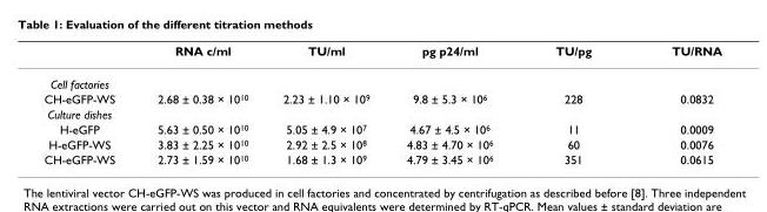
<table><thead><tr><td></td><td>RNA c/ml</td><td>TU/ml</td><td>pg p24/ml</td><td>TU/pg</td><td>TU/RNA</td></tr></thead><tbody><tr><td colspan="6">Cell factories</td></tr><tr><td>CH-eGFP-WS</td><td>2.68 ± 0.38 × 1010</td><td>2.23 ± 1.10 × 109</td><td>9.8 ± 5.3 × 106</td><td>228</td><td>0.0832</td></tr><tr><td colspan="6">Culture dishes</td></tr><tr><td>H-eGFP</td><td>5.63 ± 0.50 × 1010</td><td>5.05 ± 4.9 × 107</td><td>4.67 ± 4.5 × 106</td><td>11</td><td>0.0009</td></tr><tr><td>H-eGFP-WS</td><td>3.83 ± 2.25 × 1010</td><td>2.92 ± 2.5 × 108</td><td>4.83 ± 4.70 × 106</td><td>60</td><td>0.0076</td></tr><tr><td>CH-eGFP-WS</td><td>2.73 ± 1.59 × 1010</td><td>1.68 ± 1.3 × 109</td><td>4.79 ± 3.45 × 106</td><td>351</td><td>0.0615</td></tr></tbody></table>